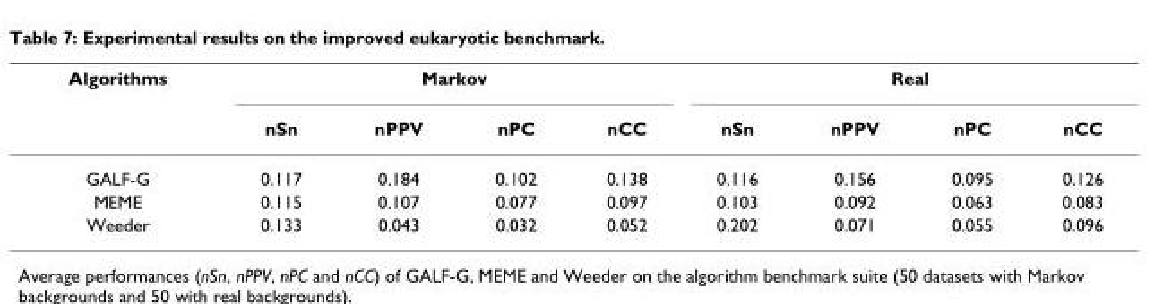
<table><thead><tr><td rowspan="2">Algorithms</td><td colspan="4">Markov</td><td colspan="4">Real</td></tr><tr><td>nSn</td><td>nPPV</td><td>nPC</td><td>nCC</td><td>nSn</td><td>nPPV</td><td>nPC</td><td>nCC</td></tr></thead><tbody><tr><td>GALF-G</td><td>0.117</td><td>0.184</td><td>0.102</td><td>0.138</td><td>0.116</td><td>0.156</td><td>0.095</td><td>0.126</td></tr><tr><td>MEME</td><td>0.115</td><td>0.107</td><td>0.077</td><td>0.097</td><td>0.103</td><td>0.092</td><td>0.063</td><td>0.083</td></tr><tr><td>Weeder</td><td>0.133</td><td>0.043</td><td>0.032</td><td>0.052</td><td>0.202</td><td>0.071</td><td>0.055</td><td>0.096</td></tr></tbody></table>